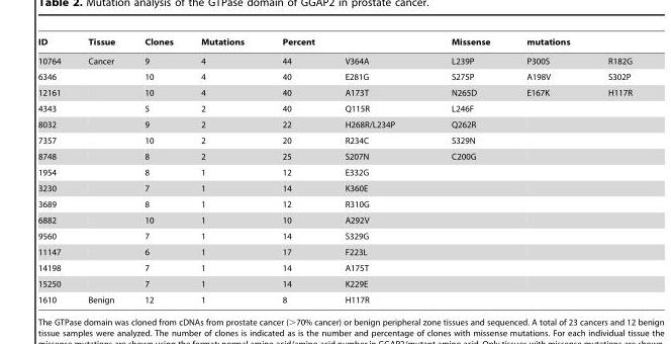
<table><thead><tr><td>ID</td><td>Tissue</td><td>Clones</td><td>Mutations</td><td>Percent</td><td></td><td>Missense</td><td>mutations</td><td></td></tr></thead><tbody><tr><td>10764</td><td>Cancer</td><td>9</td><td>4</td><td>44</td><td>V364A</td><td>L239P</td><td>P300S</td><td>R182G</td></tr><tr><td>6346</td><td></td><td>10</td><td>4</td><td>40</td><td>E281G</td><td>S275P</td><td>A198V</td><td>S302P</td></tr><tr><td>12161</td><td></td><td>10</td><td>4</td><td>40</td><td>A173T</td><td>N265D</td><td>E167K</td><td>H117R</td></tr><tr><td>4343</td><td></td><td>5</td><td>2</td><td>40</td><td>Q115R</td><td>L246F</td><td></td><td></td></tr><tr><td>8032</td><td></td><td>9</td><td>2</td><td>22</td><td>H268R/L234P</td><td>Q262R</td><td></td><td></td></tr><tr><td>7357</td><td></td><td>10</td><td>2</td><td>20</td><td>R234C</td><td>S329N</td><td></td><td></td></tr><tr><td>8748</td><td></td><td>8</td><td>2</td><td>25</td><td>S207N</td><td>C200G</td><td></td><td></td></tr><tr><td>1954</td><td></td><td>8</td><td>1</td><td>12</td><td>E332G</td><td></td><td></td><td></td></tr><tr><td>3230</td><td></td><td>7</td><td>1</td><td>14</td><td>K360E</td><td></td><td></td><td></td></tr><tr><td>3689</td><td></td><td>8</td><td>1</td><td>12</td><td>R310G</td><td></td><td></td><td></td></tr><tr><td>6882</td><td></td><td>10</td><td>1</td><td>10</td><td>A292V</td><td></td><td></td><td></td></tr><tr><td>9560</td><td></td><td>7</td><td>1</td><td>14</td><td>S329G</td><td></td><td></td><td></td></tr><tr><td>11147</td><td></td><td>6</td><td>1</td><td>17</td><td>F223L</td><td></td><td></td><td></td></tr><tr><td>14198</td><td></td><td>7</td><td>1</td><td>14</td><td>A175T</td><td></td><td></td><td></td></tr><tr><td>15250</td><td></td><td>7</td><td>1</td><td>14</td><td>K229E</td><td></td><td></td><td></td></tr><tr><td>1610</td><td>Benign</td><td>12</td><td>1</td><td>8</td><td>H117R</td><td></td><td></td><td></td></tr></tbody></table>